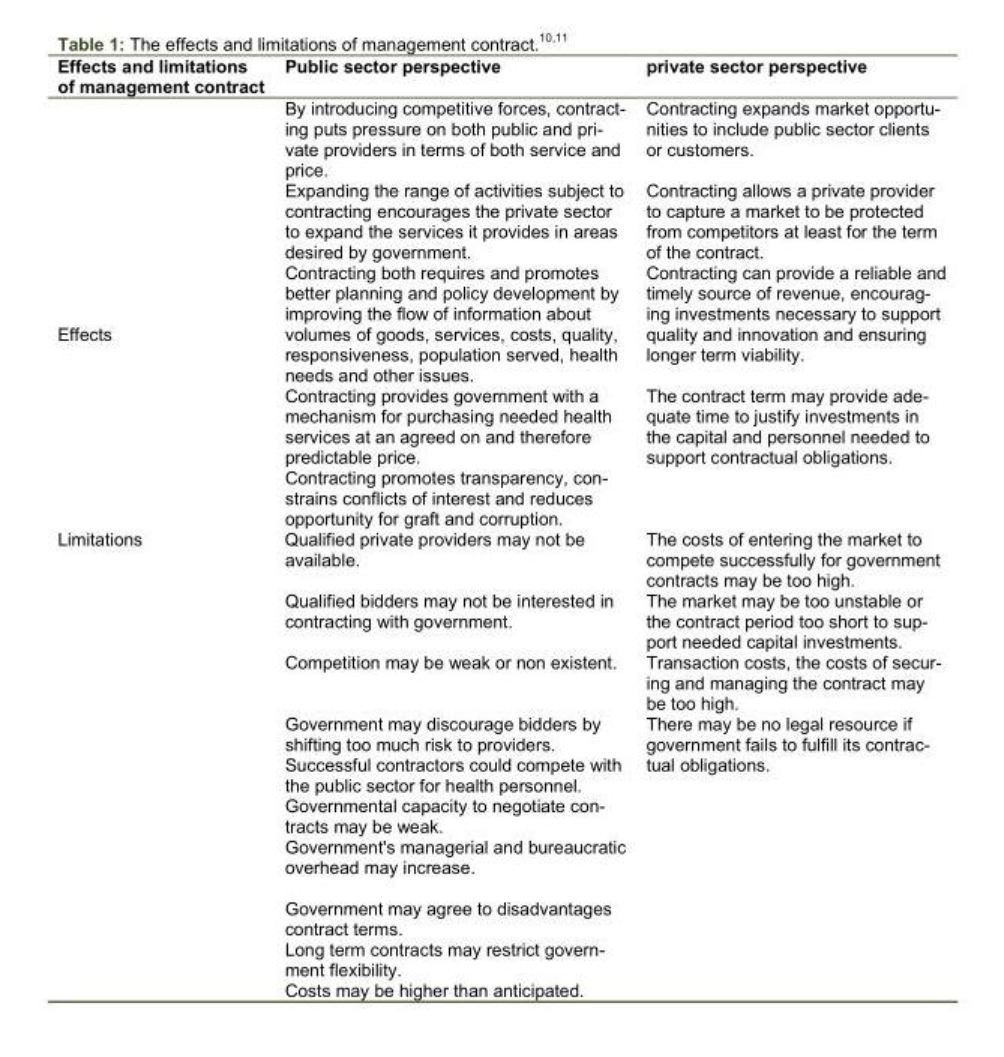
<table><thead><tr><td>Effects and limitations of management contract</td><td>Public sector perspective</td><td>private sector perspective</td></tr></thead><tbody><tr><td rowspan="5">Effects</td><td>By introducing competitive forces, contract- ing puts pressure on both public and pri- vate providers in terms of both service and price.</td><td>Contracting expands market opportu- nities to include public sector clients or customers.</td></tr><tr><td>Expanding the range of activities subject to contracting encourages the private sector to expand the services it provides in areas desired by government.</td><td>Contracting allows a private provider to capture a market to be protected from competitors at least for the term of the contract.</td></tr><tr><td>Contracting both requires and promotes better planning and policy development by improving the flow of information about volumes of goods, services, costs, quality, responsiveness, population served, health needs and other issues.</td><td>Contracting can provide a reliable and timely source of revenue, encourag- ing investments necessary to support quality and innovation and ensuring longer term viability.</td></tr><tr><td>Contracting provides government with a mechanism for purchasing needed health services at an agreed on and therefore predictable price.</td><td>The contract term may provide ade- quate time to justify investments in the capital and personnel needed to support contractual obligations.</td></tr><tr><td>Contracting promotes transparency, con- strains conflicts of interest and reduces opportunity for graft and corruption.</td><td></td></tr><tr><td rowspan="10">Limitations</td><td>Qualified private providers may not be available.</td><td>The costs of entering the market to compete successfully for government contracts may be too high.</td></tr><tr><td>Qualified bidders may not be interested in contracting with government.</td><td>The market may be too unstable or the contract period too short to sup- port needed capital investments.</td></tr><tr><td>Competition may be weak or non existent.</td><td>Transaction costs, the costs of secur- ing and managing the contract may be too high.</td></tr><tr><td>Government may discourage bidders by shifting too much risk to providers.</td><td rowspan="7">There may be no legal resource if government fails to fulfill its contrac- tual obligations.</td></tr><tr><td>Successful contractors could compete with the public sector for health personnel.</td></tr><tr><td>Governmental capacity to negotiate con- tracts may be weak.</td></tr><tr><td>Government&#x27;s managerial and bureaucratic overhead may increase.</td></tr><tr><td>Government may agree to disadvantages contract terms.</td></tr><tr><td>Long term contracts may restrict govern- ment flexibility.</td></tr><tr><td>Costs may be higher than anticipated.</td></tr></tbody></table>